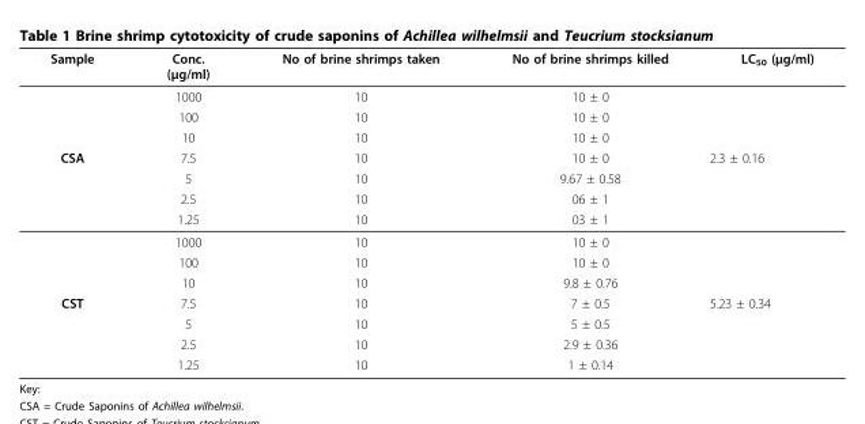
<table><thead><tr><td>Sample</td><td>Conc. (μg/ml)</td><td>No of brine shrimps taken</td><td>No of brine shrimps killed</td><td>LC<sub>50</sub> (μg/ml)</td></tr></thead><tbody><tr><td></td><td>1000</td><td>10</td><td>10 ± 0</td><td></td></tr><tr><td></td><td>100</td><td>10</td><td>10 ± 0</td><td></td></tr><tr><td></td><td>10</td><td>10</td><td>10 ± 0</td><td></td></tr><tr><td rowspan="7">CSA</td><td>7.5</td><td>10</td><td>10 ± 0</td><td>2.3 ± 0.16</td></tr><tr><td>5</td><td>10</td><td>9.67 ± 0.58</td><td></td></tr><tr><td>2.5</td><td>10</td><td>06 ± 1</td><td></td></tr><tr><td>1.25</td><td>10</td><td>03 ± 1</td><td></td></tr><tr><td>1000</td><td>10</td><td>10 ± 0</td><td></td></tr><tr><td>100</td><td>10</td><td>10 ± 0</td><td></td></tr><tr><td>10</td><td>10</td><td>9.8 ± 0.76</td><td></td></tr><tr><td rowspan="4">CST</td><td>7.5</td><td>10</td><td>7 ± 0.5</td><td>5.23 ± 0.34</td></tr><tr><td>5</td><td>10</td><td>5 ± 0.5</td><td></td></tr><tr><td>2.5</td><td>10</td><td>2.9 ± 0.36</td><td></td></tr><tr><td>1.25</td><td>10</td><td>1 ± 0.14</td><td></td></tr></tbody></table>